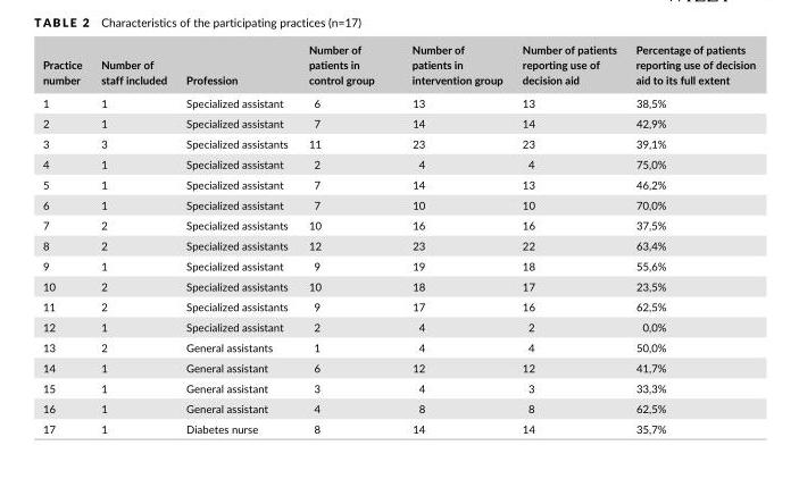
<table><thead><tr><td>Practice number</td><td>Number of staff included</td><td>Profession</td><td>Number of patients in control group</td><td>Number of patients in intervention group</td><td>Number of patients reporting use of decision aid</td><td>Percentage of patients reporting use of decision aid to its full extent</td></tr></thead><tbody><tr><td>1</td><td>1</td><td>Specialized assistant</td><td>6</td><td>13</td><td>13</td><td>38,5%</td></tr><tr><td>2</td><td>1</td><td>Specialized assistant</td><td>7</td><td>14</td><td>14</td><td>42,9%</td></tr><tr><td>3</td><td>3</td><td>Specialized assistants</td><td>11</td><td>23</td><td>23</td><td>39,1%</td></tr><tr><td>4</td><td>1</td><td>Specialized assistant</td><td>2</td><td>4</td><td>4</td><td>75,0%</td></tr><tr><td>5</td><td>1</td><td>Specialized assistant</td><td>7</td><td>14</td><td>13</td><td>46,2%</td></tr><tr><td>6</td><td>1</td><td>Specialized assistant</td><td>7</td><td>10</td><td>10</td><td>70,0%</td></tr><tr><td>7</td><td>2</td><td>Specialized assistants</td><td>10</td><td>16</td><td>16</td><td>37,5%</td></tr><tr><td>8</td><td>2</td><td>Specialized assistants</td><td>12</td><td>23</td><td>22</td><td>63,4%</td></tr><tr><td>9</td><td>1</td><td>Specialized assistant</td><td>9</td><td>19</td><td>18</td><td>55,6%</td></tr><tr><td>10</td><td>2</td><td>Specialized assistants</td><td>10</td><td>18</td><td>17</td><td>23,5%</td></tr><tr><td>11</td><td>2</td><td>Specialized assistants</td><td>9</td><td>17</td><td>16</td><td>62,5%</td></tr><tr><td>12</td><td>1</td><td>Specialized assistant</td><td>2</td><td>4</td><td>2</td><td>0,0%</td></tr><tr><td>13</td><td>2</td><td>General assistants</td><td>1</td><td>4</td><td>4</td><td>50,0%</td></tr><tr><td>14</td><td>1</td><td>General assistant</td><td>6</td><td>12</td><td>12</td><td>41,7%</td></tr><tr><td>15</td><td>1</td><td>General assistant</td><td>3</td><td>4</td><td>3</td><td>33,3%</td></tr><tr><td>16</td><td>1</td><td>General assistant</td><td>4</td><td>8</td><td>8</td><td>62,5%</td></tr><tr><td>17</td><td>1</td><td>Diabetes nurse</td><td>8</td><td>14</td><td>14</td><td>35,7%</td></tr></tbody></table>